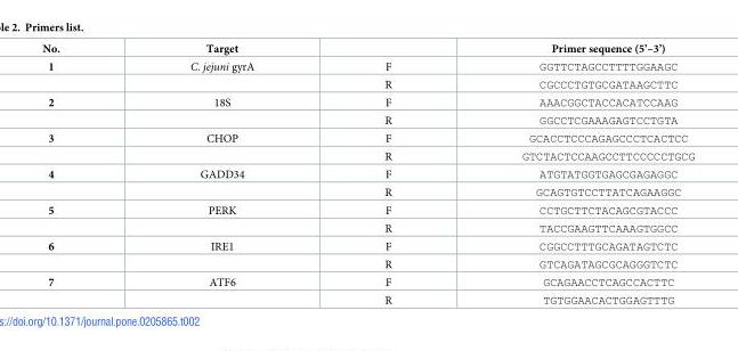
<table><thead><tr><td>No.</td><td>Target</td><td></td><td>Primer sequence (5’–3’)</td></tr></thead><tbody><tr><td rowspan="2">1</td><td>C. jejuni gyrA</td><td>F</td><td>GGTTCTAGCCTTTTGGAAGC</td></tr><tr><td></td><td>R</td><td>CGCCCTGTGCGATAAGCTTC</td></tr><tr><td rowspan="2">2</td><td>18S</td><td>F</td><td>AAACGGCTACCACATCCAAG</td></tr><tr><td></td><td>R</td><td>GGCCTCGAAAGAGTCCTGTA</td></tr><tr><td rowspan="2">3</td><td>CHOP</td><td>F</td><td>GCACCTCCCAGAGCCCTCACTCC</td></tr><tr><td></td><td>R</td><td>GTCTACTCCAAGCCTTCCCCCTGCG</td></tr><tr><td rowspan="2">4</td><td>GADD34</td><td>F</td><td>ATGTATGGTGAGCGAGAGGC</td></tr><tr><td></td><td>R</td><td>GCAGTGTCCTTATCAGAAGGC</td></tr><tr><td rowspan="2">5</td><td>PERK</td><td>F</td><td>CCTGCTTCTACAGCGTACCC</td></tr><tr><td></td><td>R</td><td>TACCGAAGTTCAAAGTGGCC</td></tr><tr><td rowspan="2">6</td><td>IRE1</td><td>F</td><td>CGGCCTTTGCAGATAGTCTC</td></tr><tr><td></td><td>R</td><td>GTCAGATAGCGCAGGGTCTC</td></tr><tr><td rowspan="2">7</td><td>ATF6</td><td>F</td><td>GCAGAACCTCAGCCACTTC</td></tr><tr><td></td><td>R</td><td>TGTGGAACACTGGAGTTTG</td></tr></tbody></table>